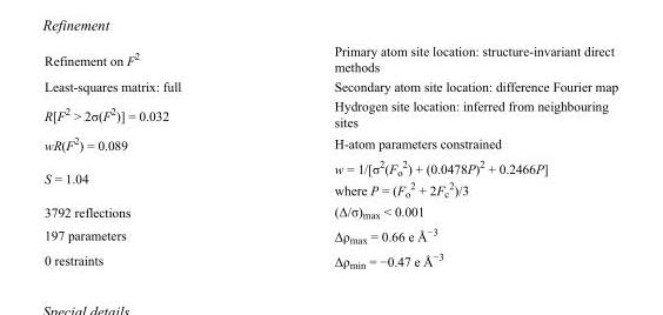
<table><tbody><tr><td>Refinement on F<sup>2</sup></td><td>Primary atom site location: structure-invariant direct methods</td></tr><tr><td>Least-squares matrix: full</td><td>Secondary atom site location: difference Fourier map</td></tr><tr><td>R[F<sup>2</sup> &gt; 2σ(F<sup>2</sup>)] = 0.032</td><td>Hydrogen site location: inferred from neighbouring sites</td></tr><tr><td>wR(F<sup>2</sup>) = 0.089</td><td>H-atom parameters constrained</td></tr><tr><td>S = 1.04</td><td>w = 1/[σ<sup>2</sup>(F<sub>o</sub> <sup>2</sup>) + (0.0478P)<sup>2</sup> + 0.2466P] where P = (F<sub>o</sub> <sup>2</sup> + 2F<sub>c</sub> <sup>2</sup>)/3</td></tr><tr><td>3792 reflections</td><td>(Δ/σ)<sub>max</sub> &lt; 0.001</td></tr><tr><td>197 parameters</td><td>Δρ<sub>max</sub> = 0.66 e Å<sup>−3</sup></td></tr><tr><td>0 restraints</td><td>Δρ<sub>min</sub> = −0.47 e Å<sup>−3</sup></td></tr></tbody></table>